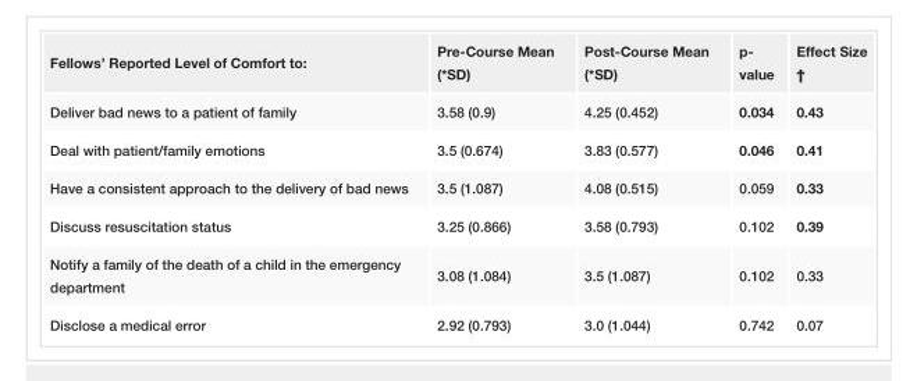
<table><tbody><tr><td>Fellows’ Reported Level of Comfort to:</td><td>Pre-Course Mean (*SD)</td><td>Post-Course Mean (*SD)</td><td>p- value</td><td>Effect Size ϯ</td></tr><tr><td>Deliver bad news to a patient of family</td><td>3.58 (0.9)</td><td>4.25 (0.452)</td><td>0.034</td><td>0.43</td></tr><tr><td>Deal with patient/family emotions</td><td>3.5 (0.674)</td><td>3.83 (0.577)</td><td>0.046</td><td>0.41</td></tr><tr><td>Have a consistent approach to the delivery of bad news</td><td>3.5 (1.087)</td><td>4.08 (0.515)</td><td>0.059</td><td>0.33</td></tr><tr><td>Discuss resuscitation status</td><td>3.25 (0.866)</td><td>3.58 (0.793)</td><td>0.102</td><td>0.39</td></tr><tr><td>Notify a family of the death of a child in the emergency department</td><td>3.08 (1.084)</td><td>3.5 (1.087)</td><td>0.102</td><td>0.33</td></tr><tr><td>Disclose a medical error</td><td>2.92 (0.793)</td><td>3.0 (1.044)</td><td>0.742</td><td>0.07</td></tr></tbody></table>